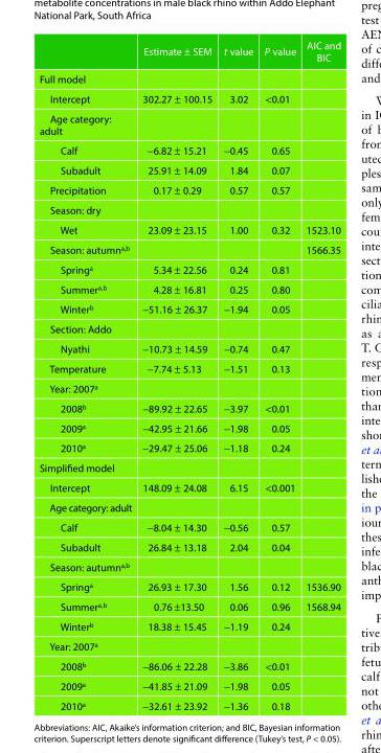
<table><thead><tr><td></td><td>Estimate ± SEM</td><td>t value</td><td>P value</td><td>AIC and BIC</td></tr></thead><tbody><tr><td colspan="5">Full model</td></tr><tr><td>Intercept</td><td>302.27 ± 100.15</td><td>3.02</td><td>&lt;0.01</td><td></td></tr><tr><td colspan="5">Age category: adult</td></tr><tr><td>Calf</td><td>−6.82 ± 15.21</td><td>−0.45</td><td>0.65</td><td></td></tr><tr><td>Subadult</td><td>25.91 ± 14.09</td><td>1.84</td><td>0.07</td><td></td></tr><tr><td>Precipitation</td><td>0.17 ± 0.29</td><td>0.57</td><td>0.57</td><td></td></tr><tr><td colspan="5">Season: dry</td></tr><tr><td>Wet</td><td>23.09 ± 23.15</td><td>1.00</td><td>0.32</td><td>1523.10</td></tr><tr><td>Season: autumn<sup>a,b</sup></td><td></td><td></td><td></td><td>1566.35</td></tr><tr><td>Spring<sup>a</sup></td><td>5.34 ± 22.56</td><td>0.24</td><td>0.81</td><td></td></tr><tr><td>Summer<sup>a,b</sup></td><td>4.28 ± 16.81</td><td>0.25</td><td>0.80</td><td></td></tr><tr><td>Winter<sup>b</sup></td><td>−51.16 ± 26.37</td><td>−1.94</td><td>0.05</td><td></td></tr><tr><td colspan="5">Section: Addo</td></tr><tr><td>Nyathi</td><td>−10.73 ± 14.59</td><td>−0.74</td><td>0.47</td><td></td></tr><tr><td>Temperature</td><td>−7.74 ± 5.13</td><td>−1.51</td><td>0.13</td><td></td></tr><tr><td colspan="5">Year: 2007<sup>a</sup></td></tr><tr><td>2008<sup>b</sup></td><td>−89.92 ± 22.65</td><td>−3.97</td><td>&lt;0.01</td><td></td></tr><tr><td>2009<sup>a</sup></td><td>−42.95 ± 21.66</td><td>−1.98</td><td>0.05</td><td></td></tr><tr><td>2010<sup>a</sup></td><td>−29.47 ± 25.06</td><td>−1.18</td><td>0.24</td><td></td></tr><tr><td colspan="5">Simplified model</td></tr><tr><td>Intercept</td><td>148.09 ± 24.08</td><td>6.15</td><td>&lt;0.001</td><td></td></tr><tr><td colspan="5">Age category: adult</td></tr><tr><td>Calf</td><td>−8.04 ± 14.30</td><td>−0.56</td><td>0.57</td><td></td></tr><tr><td>Subadult</td><td>26.84 ± 13.18</td><td>2.04</td><td>0.04</td><td></td></tr><tr><td colspan="5">Season: autumn<sup>a,b</sup></td></tr><tr><td>Spring<sup>a</sup></td><td>26.93 ± 17.30</td><td>1.56</td><td>0.12</td><td>1536.90</td></tr><tr><td>Summer<sup>a,b</sup></td><td>0.76 ±13.50</td><td>0.06</td><td>0.96</td><td>1568.94</td></tr><tr><td>Winter<sup>b</sup></td><td>18.38 ± 15.45</td><td>−1.19</td><td>0.24</td><td></td></tr><tr><td colspan="5">Year: 2007<sup>a</sup></td></tr><tr><td>2008<sup>b</sup></td><td>−86.06 ± 22.28</td><td>−3.86</td><td>&lt;0.01</td><td></td></tr><tr><td>2009<sup>a</sup></td><td>−41.85 ± 21.09</td><td>−1.98</td><td>0.05</td><td></td></tr><tr><td>2010<sup>a</sup></td><td>−32.61 ± 23.92</td><td>−1.36</td><td>0.18</td><td></td></tr></tbody></table>